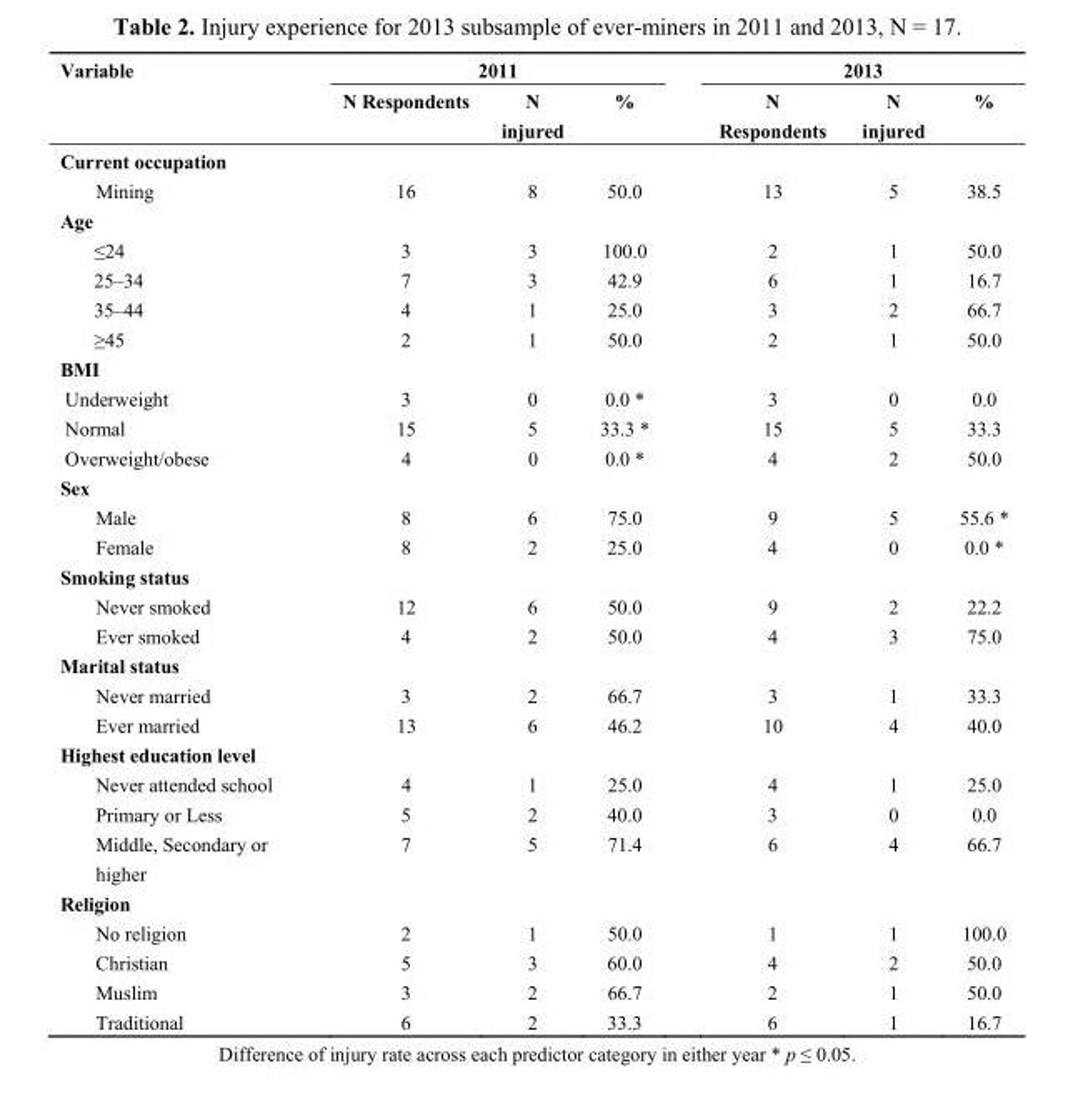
<table><thead><tr><td rowspan="2">Variable</td><td colspan="3">2011</td><td colspan="3">2013</td></tr><tr><td>N Respondents</td><td>N injured</td><td>%</td><td>N Respondents</td><td>N injured</td><td>%</td></tr></thead><tbody><tr><td colspan="7">Current occupation</td></tr><tr><td>Mining</td><td>16</td><td>8</td><td>50.0</td><td>13</td><td>5</td><td>38.5</td></tr><tr><td colspan="7">Age</td></tr><tr><td>≤24</td><td>3</td><td>3</td><td>100.0</td><td>2</td><td>1</td><td>50.0</td></tr><tr><td>25–34</td><td>7</td><td>3</td><td>42.9</td><td>6</td><td>1</td><td>16.7</td></tr><tr><td>35–44</td><td>4</td><td>1</td><td>25.0</td><td>3</td><td>2</td><td>66.7</td></tr><tr><td>≥45</td><td>2</td><td>1</td><td>50.0</td><td>2</td><td>1</td><td>50.0</td></tr><tr><td colspan="7">BMI</td></tr><tr><td>Underweight</td><td>3</td><td>0</td><td>0.0 *</td><td>3</td><td>0</td><td>0.0</td></tr><tr><td>Normal</td><td>15</td><td>5</td><td>33.3 *</td><td>15</td><td>5</td><td>33.3</td></tr><tr><td>Overweight/obese</td><td>4</td><td>0</td><td>0.0 *</td><td>4</td><td>2</td><td>50.0</td></tr><tr><td colspan="7">Sex</td></tr><tr><td>Male</td><td>8</td><td>6</td><td>75.0</td><td>9</td><td>5</td><td>55.6 *</td></tr><tr><td>Female</td><td>8</td><td>2</td><td>25.0</td><td>4</td><td>0</td><td>0.0 *</td></tr><tr><td colspan="7">Smoking status</td></tr><tr><td>Never smoked</td><td>12</td><td>6</td><td>50.0</td><td>9</td><td>2</td><td>22.2</td></tr><tr><td>Ever smoked</td><td>4</td><td>2</td><td>50.0</td><td>4</td><td>3</td><td>75.0</td></tr><tr><td colspan="7">Marital status</td></tr><tr><td>Never married</td><td>3</td><td>2</td><td>66.7</td><td>3</td><td>1</td><td>33.3</td></tr><tr><td>Ever married</td><td>13</td><td>6</td><td>46.2</td><td>10</td><td>4</td><td>40.0</td></tr><tr><td colspan="7">Highest education level</td></tr><tr><td>Never attended school</td><td>4</td><td>1</td><td>25.0</td><td>4</td><td>1</td><td>25.0</td></tr><tr><td>Primary or Less</td><td>5</td><td>2</td><td>40.0</td><td>3</td><td>0</td><td>0.0</td></tr><tr><td>Middle, Secondary or higher</td><td>7</td><td>5</td><td>71.4</td><td>6</td><td>4</td><td>66.7</td></tr><tr><td colspan="7">Religion</td></tr><tr><td>No religion</td><td>2</td><td>1</td><td>50.0</td><td>1</td><td>1</td><td>100.0</td></tr><tr><td>Christian</td><td>5</td><td>3</td><td>60.0</td><td>4</td><td>2</td><td>50.0</td></tr><tr><td>Muslim</td><td>3</td><td>2</td><td>66.7</td><td>2</td><td>1</td><td>50.0</td></tr><tr><td>Traditional</td><td>6</td><td>2</td><td>33.3</td><td>6</td><td>1</td><td>16.7</td></tr></tbody></table>